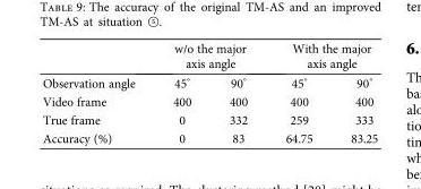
<table><thead><tr><td rowspan="2">Observation angle</td><td colspan="2">w/o the major axis angle</td><td colspan="2">With the major axis angle</td></tr><tr><td>45°</td><td>90°</td><td>45°</td><td>90°</td></tr></thead><tbody><tr><td>Video frame</td><td>400</td><td>400</td><td>400</td><td>400</td></tr><tr><td>True frame</td><td>0</td><td>332</td><td>259</td><td>333</td></tr><tr><td>Accuracy (%)</td><td>0</td><td>83</td><td>64.75</td><td>83.25</td></tr></tbody></table>